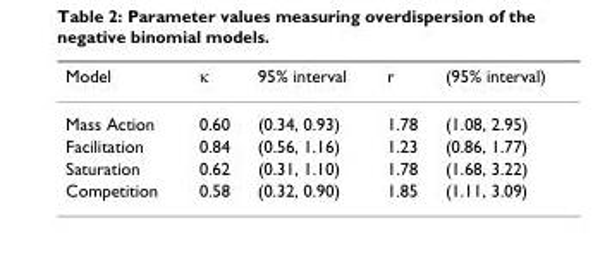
<table><thead><tr><td>Model</td><td>κ</td><td>95% interval</td><td>r</td><td>(95% interval)</td></tr></thead><tbody><tr><td>Mass Action</td><td>0.60</td><td>(0.34, 0.93)</td><td>1.78</td><td>(1.08, 2.95)</td></tr><tr><td>Facilitation</td><td>0.84</td><td>(0.56, 1.16)</td><td>1.23</td><td>(0.86, 1.77)</td></tr><tr><td>Saturation</td><td>0.62</td><td>(0.31, 1.10)</td><td>1.78</td><td>(1.68, 3.22)</td></tr><tr><td>Competition</td><td>0.58</td><td>(0.32, 0.90)</td><td>1.85</td><td>(1.11, 3.09)</td></tr></tbody></table>